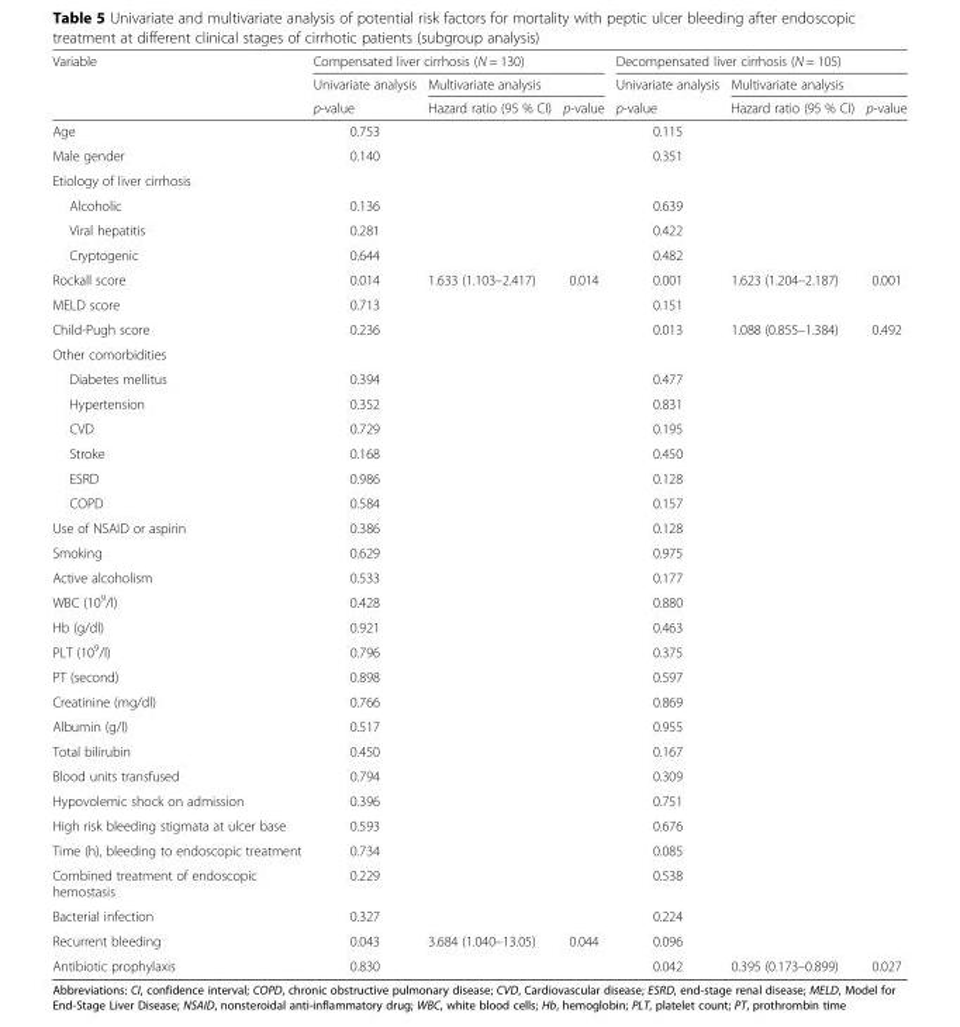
<table><thead><tr><td rowspan="3">Variable</td><td colspan="3">Compensated liver cirrhosis (N = 130)</td><td colspan="3">Decompensated liver cirrhosis (N = 105)</td></tr><tr><td rowspan="2">Univariate analysis p-value</td><td colspan="2">Multivariate analysis</td><td rowspan="2">Univariate analysis p-value</td><td colspan="2">Multivariate analysis</td></tr><tr><td>Hazard ratio (95 % CI)</td><td>p-value</td><td>Hazard ratio (95 % CI)</td><td>p-value</td></tr></thead><tbody><tr><td>Age</td><td>0.753</td><td></td><td></td><td>0.115</td><td></td><td></td></tr><tr><td>Male gender</td><td>0.140</td><td></td><td></td><td>0.351</td><td></td><td></td></tr><tr><td colspan="7">Etiology of liver cirrhosis</td></tr><tr><td>Alcoholic</td><td>0.136</td><td></td><td></td><td>0.639</td><td></td><td></td></tr><tr><td>Viral hepatitis</td><td>0.281</td><td></td><td></td><td>0.422</td><td></td><td></td></tr><tr><td>Cryptogenic</td><td>0.644</td><td></td><td></td><td>0.482</td><td></td><td></td></tr><tr><td>Rockall score</td><td>0.014</td><td>1.633 (1.103–2.417)</td><td>0.014</td><td>0.001</td><td>1.623 (1.204–2.187)</td><td>0.001</td></tr><tr><td>MELD score</td><td>0.713</td><td></td><td></td><td>0.151</td><td></td><td></td></tr><tr><td>Child-Pugh score</td><td>0.236</td><td></td><td></td><td>0.013</td><td>1.088 (0.855–1.384)</td><td>0.492</td></tr><tr><td colspan="7">Other comorbidities</td></tr><tr><td>Diabetes mellitus</td><td>0.394</td><td></td><td></td><td>0.477</td><td></td><td></td></tr><tr><td>Hypertension</td><td>0.352</td><td></td><td></td><td>0.831</td><td></td><td></td></tr><tr><td>CVD</td><td>0.729</td><td></td><td></td><td>0.195</td><td></td><td></td></tr><tr><td>Stroke</td><td>0.168</td><td></td><td></td><td>0.450</td><td></td><td></td></tr><tr><td>ESRD</td><td>0.986</td><td></td><td></td><td>0.128</td><td></td><td></td></tr><tr><td>COPD</td><td>0.584</td><td></td><td></td><td>0.157</td><td></td><td></td></tr><tr><td>Use of NSAID or aspirin</td><td>0.386</td><td></td><td></td><td>0.128</td><td></td><td></td></tr><tr><td>Smoking</td><td>0.629</td><td></td><td></td><td>0.975</td><td></td><td></td></tr><tr><td>Active alcoholism</td><td>0.533</td><td></td><td></td><td>0.177</td><td></td><td></td></tr><tr><td>WBC (10<sup>9</sup>/l)</td><td>0.428</td><td></td><td></td><td>0.880</td><td></td><td></td></tr><tr><td>Hb (g/dl)</td><td>0.921</td><td></td><td></td><td>0.463</td><td></td><td></td></tr><tr><td>PLT (10<sup>9</sup>/l)</td><td>0.796</td><td></td><td></td><td>0.375</td><td></td><td></td></tr><tr><td>PT (second)</td><td>0.898</td><td></td><td></td><td>0.597</td><td></td><td></td></tr><tr><td>Creatinine (mg/dl)</td><td>0.766</td><td></td><td></td><td>0.869</td><td></td><td></td></tr><tr><td>Albumin (g/l)</td><td>0.517</td><td></td><td></td><td>0.955</td><td></td><td></td></tr><tr><td>Total bilirubin</td><td>0.450</td><td></td><td></td><td>0.167</td><td></td><td></td></tr><tr><td>Blood units transfused</td><td>0.794</td><td></td><td></td><td>0.309</td><td></td><td></td></tr><tr><td>Hypovolemic shock on admission</td><td>0.396</td><td></td><td></td><td>0.751</td><td></td><td></td></tr><tr><td>High risk bleeding stigmata at ulcer base</td><td>0.593</td><td></td><td></td><td>0.676</td><td></td><td></td></tr><tr><td>Time (h), bleeding to endoscopic treatment</td><td>0.734</td><td></td><td></td><td>0.085</td><td></td><td></td></tr><tr><td>Combined treatment of endoscopic hemostasis</td><td>0.229</td><td></td><td></td><td>0.538</td><td></td><td></td></tr><tr><td>Bacterial infection</td><td>0.327</td><td></td><td></td><td>0.224</td><td></td><td></td></tr><tr><td>Recurrent bleeding</td><td>0.043</td><td>3.684 (1.040–13.05)</td><td>0.044</td><td>0.096</td><td></td><td></td></tr><tr><td>Antibiotic prophylaxis</td><td>0.830</td><td></td><td></td><td>0.042</td><td>0.395 (0.173–0.899)</td><td>0.027</td></tr></tbody></table>